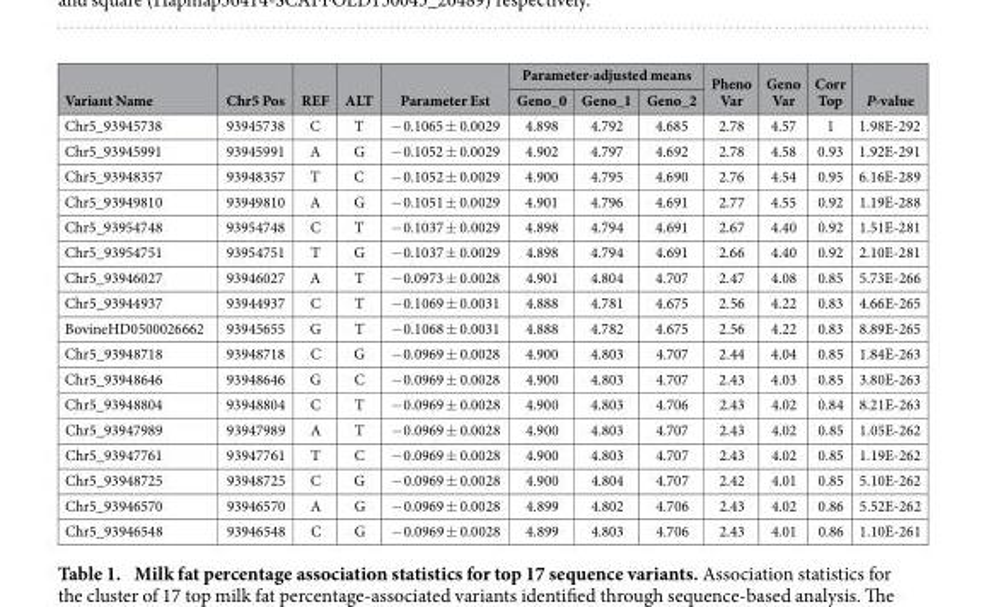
<table><thead><tr><td rowspan="2">Variant Name</td><td rowspan="2">Chr5 Pos</td><td rowspan="2">REF</td><td rowspan="2">ALT</td><td rowspan="2">Parameter Est</td><td colspan="3">Parameter-adjusted means</td><td rowspan="2">Pheno Var</td><td rowspan="2">Geno Var</td><td rowspan="2">Corr Top</td><td rowspan="2">P-value</td></tr><tr><td>Geno_0</td><td>Geno_1</td><td>Geno_2</td></tr></thead><tbody><tr><td>Chr5_93945738</td><td>93945738</td><td>C</td><td>T</td><td>− 0.1065 ± 0.0029</td><td>4.898</td><td>4.792</td><td>4.685</td><td>2.78</td><td>4.57</td><td>1</td><td>1.98E-292</td></tr><tr><td>Chr5_93945991</td><td>93945991</td><td>A</td><td>G</td><td>− 0.1052 ± 0.0029</td><td>4.902</td><td>4.797</td><td>4.692</td><td>2.78</td><td>4.58</td><td>0.93</td><td>1.92E-291</td></tr><tr><td>Chr5_93948357</td><td>93948357</td><td>T</td><td>C</td><td>− 0.1052 ± 0.0029</td><td>4.900</td><td>4.795</td><td>4.690</td><td>2.76</td><td>4.54</td><td>0.95</td><td>6.16E-289</td></tr><tr><td>Chr5_93949810</td><td>93949810</td><td>A</td><td>G</td><td>− 0.1051 ± 0.0029</td><td>4.901</td><td>4.796</td><td>4.691</td><td>2.77</td><td>4.55</td><td>0.92</td><td>1.19E-288</td></tr><tr><td>Chr5_93954748</td><td>93954748</td><td>C</td><td>T</td><td>− 0.1037 ± 0.0029</td><td>4.898</td><td>4.794</td><td>4.691</td><td>2.67</td><td>4.40</td><td>0.92</td><td>1.51E-281</td></tr><tr><td>Chr5_93954751</td><td>93954751</td><td>T</td><td>G</td><td>− 0.1037 ± 0.0029</td><td>4.898</td><td>4.794</td><td>4.691</td><td>2.66</td><td>4.40</td><td>0.92</td><td>2.10E-281</td></tr><tr><td>Chr5_93946027</td><td>93946027</td><td>A</td><td>T</td><td>− 0.0973 ± 0.0028</td><td>4.901</td><td>4.804</td><td>4.707</td><td>2.47</td><td>4.08</td><td>0.85</td><td>5.73E-266</td></tr><tr><td>Chr5_93944937</td><td>93944937</td><td>C</td><td>T</td><td>− 0.1069 ± 0.0031</td><td>4.888</td><td>4.781</td><td>4.675</td><td>2.56</td><td>4.22</td><td>0.83</td><td>4.66E-265</td></tr><tr><td>BovineHD0500026662</td><td>93945655</td><td>G</td><td>T</td><td>− 0.1068 ± 0.0031</td><td>4.888</td><td>4.782</td><td>4.675</td><td>2.56</td><td>4.22</td><td>0.83</td><td>8.89E-265</td></tr><tr><td>Chr5_93948718</td><td>93948718</td><td>C</td><td>G</td><td>− 0.0969 ± 0.0028</td><td>4.900</td><td>4.803</td><td>4.707</td><td>2.44</td><td>4.04</td><td>0.85</td><td>1.84E-263</td></tr><tr><td>Chr5_93948646</td><td>93948646</td><td>G</td><td>C</td><td>− 0.0969 ± 0.0028</td><td>4.900</td><td>4.803</td><td>4.707</td><td>2.43</td><td>4.03</td><td>0.85</td><td>3.80E-263</td></tr><tr><td>Chr5_93948804</td><td>93948804</td><td>C</td><td>T</td><td>− 0.0969 ± 0.0028</td><td>4.900</td><td>4.803</td><td>4.706</td><td>2.43</td><td>4.02</td><td>0.84</td><td>8.21E-263</td></tr><tr><td>Chr5_93947989</td><td>93947989</td><td>A</td><td>T</td><td>− 0.0969 ± 0.0028</td><td>4.900</td><td>4.803</td><td>4.707</td><td>2.43</td><td>4.02</td><td>0.85</td><td>1.05E-262</td></tr><tr><td>Chr5_93947761</td><td>93947761</td><td>T</td><td>C</td><td>− 0.0969 ± 0.0028</td><td>4.900</td><td>4.803</td><td>4.707</td><td>2.43</td><td>4.02</td><td>0.85</td><td>1.19E-262</td></tr><tr><td>Chr5_93948725</td><td>93948725</td><td>C</td><td>G</td><td>− 0.0969 ± 0.0028</td><td>4.900</td><td>4.804</td><td>4.707</td><td>2.42</td><td>4.01</td><td>0.85</td><td>5.10E-262</td></tr><tr><td>Chr5_93946570</td><td>93946570</td><td>A</td><td>G</td><td>− 0.0969 ± 0.0028</td><td>4.899</td><td>4.802</td><td>4.706</td><td>2.43</td><td>4.02</td><td>0.86</td><td>5.52E-262</td></tr><tr><td>Chr5_93946548</td><td>93946548</td><td>C</td><td>G</td><td>− 0.0969 ± 0.0028</td><td>4.899</td><td>4.803</td><td>4.706</td><td>2.43</td><td>4.01</td><td>0.86</td><td>1.10E-261</td></tr></tbody></table>